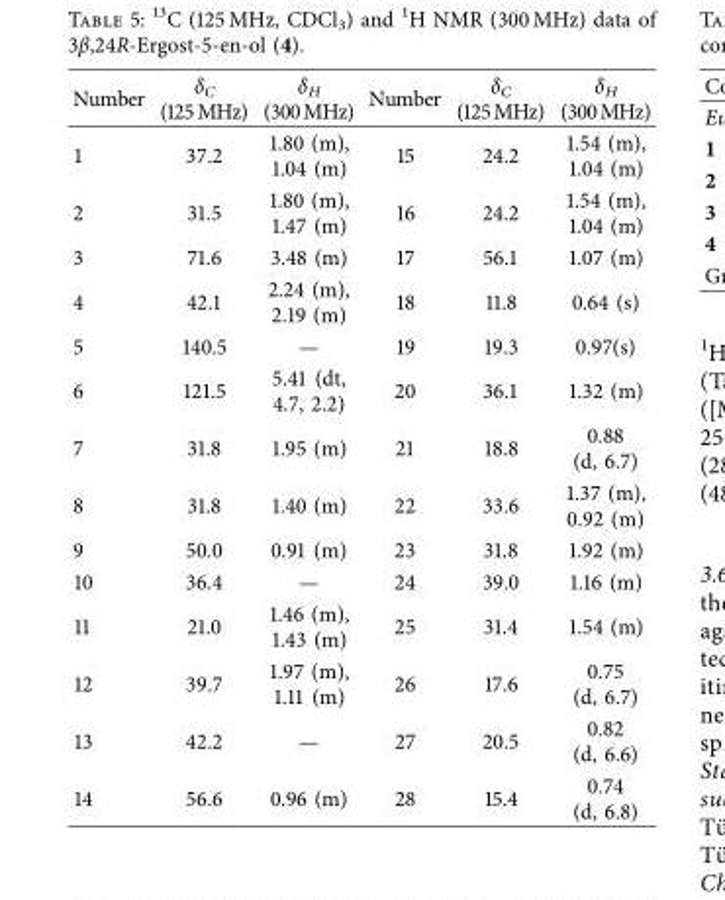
<table><thead><tr><td>Number</td><td>δ<sub>C</sub> (125MHz)</td><td>δ<sub>H</sub> (300MHz)</td><td>Number</td><td>δ<sub>C</sub> (125MHz)</td><td>δ<sub>H</sub> (300MHz)</td></tr></thead><tbody><tr><td>1</td><td>37.2</td><td>1.80 (m), 1.04 (m)</td><td>15</td><td>24.2</td><td>1.54 (m), 1.04 (m)</td></tr><tr><td>2</td><td>31.5</td><td>1.80 (m), 1.47 (m)</td><td>16</td><td>24.2</td><td>1.54 (m), 1.04 (m)</td></tr><tr><td>3</td><td>71.6</td><td>3.48 (m)</td><td>17</td><td>56.1</td><td>1.07 (m)</td></tr><tr><td>4</td><td>42.1</td><td>2.24 (m), 2.19 (m)</td><td>18</td><td>11.8</td><td>0.64 (s)</td></tr><tr><td>5</td><td>140.5</td><td>—</td><td>19</td><td>19.3</td><td>0.97(s)</td></tr><tr><td>6</td><td>121.5</td><td>5.41 (dt, 4.7, 2.2)</td><td>20</td><td>36.1</td><td>1.32 (m)</td></tr><tr><td>7</td><td>31.8</td><td>1.95 (m)</td><td>21</td><td>18.8</td><td>0.88 (d, 6.7)</td></tr><tr><td>8</td><td>31.8</td><td>1.40 (m)</td><td>22</td><td>33.6</td><td>1.37 (m), 0.92 (m)</td></tr><tr><td>9</td><td>50.0</td><td>0.91 (m)</td><td>23</td><td>31.8</td><td>1.92 (m)</td></tr><tr><td>10</td><td>36.4</td><td>—</td><td>24</td><td>39.0</td><td>1.16 (m)</td></tr><tr><td>11</td><td>21.0</td><td>1.46 (m), 1.43 (m)</td><td>25</td><td>31.4</td><td>1.54 (m)</td></tr><tr><td>12</td><td>39.7</td><td>1.97 (m), 1.11 (m)</td><td>26</td><td>17.6</td><td>0.75 (d, 6.7)</td></tr><tr><td>13</td><td>42.2</td><td>—</td><td>27</td><td>20.5</td><td>0.82 (d, 6.6)</td></tr><tr><td>14</td><td>56.6</td><td>0.96 (m)</td><td>28</td><td>15.4</td><td>0.74 (d, 6.8)</td></tr></tbody></table>